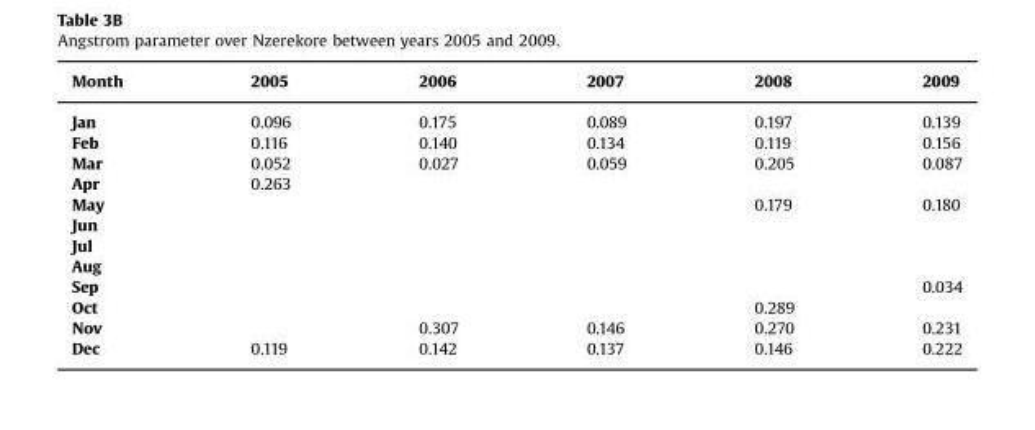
<table><thead><tr><td>Month</td><td>2005</td><td>2006</td><td>2007</td><td>2008</td><td>2009</td></tr></thead><tbody><tr><td>Jan</td><td>0.096</td><td>0.175</td><td>0.089</td><td>0.197</td><td>0.139</td></tr><tr><td>Feb</td><td>0.116</td><td>0.140</td><td>0.134</td><td>0.119</td><td>0.156</td></tr><tr><td>Mar</td><td>0.052</td><td>0.027</td><td>0.059</td><td>0.205</td><td>0.087</td></tr><tr><td>Apr</td><td>0.263</td><td></td><td></td><td></td><td></td></tr><tr><td>May</td><td></td><td></td><td></td><td>0.179</td><td>0.180</td></tr><tr><td colspan="6">Jun</td></tr><tr><td colspan="6">Jul</td></tr><tr><td colspan="6">Aug</td></tr><tr><td>Sep</td><td></td><td></td><td></td><td></td><td>0.034</td></tr><tr><td>Oct</td><td></td><td></td><td></td><td>0.289</td><td></td></tr><tr><td>Nov</td><td></td><td>0.307</td><td>0.146</td><td>0.270</td><td>0.231</td></tr><tr><td>Dec</td><td>0.119</td><td>0.142</td><td>0.137</td><td>0.146</td><td>0.222</td></tr></tbody></table>